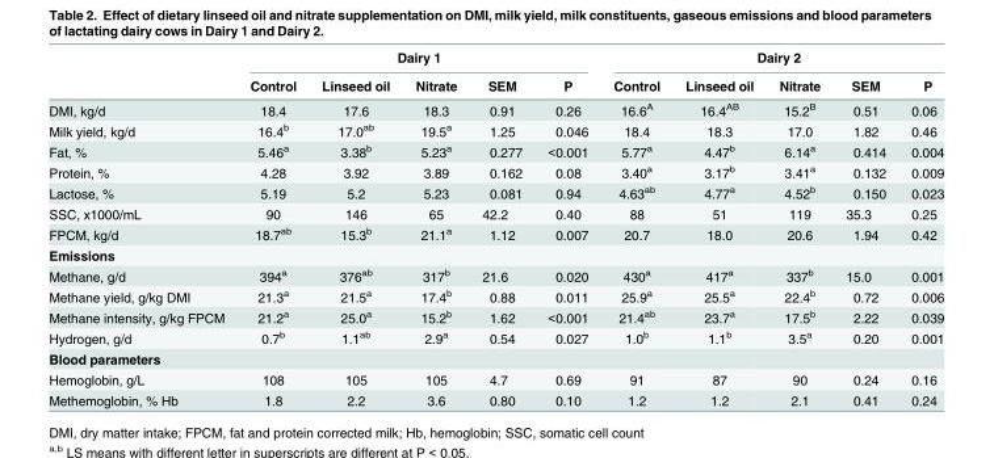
<table><thead><tr><td rowspan="2"></td><td colspan="5">Dairy 1</td><td colspan="5">Dairy 2</td></tr><tr><td>Control</td><td>Linseed oil</td><td>Nitrate</td><td>SEM</td><td>P</td><td>Control</td><td>Linseed oil</td><td>Nitrate</td><td>SEM</td><td>P</td></tr></thead><tbody><tr><td>DMI, kg/d</td><td>18.4</td><td>17.6</td><td>18.3</td><td>0.91</td><td>0.26</td><td>16.6<sup>A</sup></td><td>16.4<sup>AB</sup></td><td>15.2<sup>B</sup></td><td>0.51</td><td>0.06</td></tr><tr><td>Milk yield, kg/d</td><td>16.4<sup>b</sup></td><td>17.0<sup>ab</sup></td><td>19.5<sup>a</sup></td><td>1.25</td><td>0.046</td><td>18.4</td><td>18.3</td><td>17.0</td><td>1.82</td><td>0.46</td></tr><tr><td>Fat, %</td><td>5.46<sup>a</sup></td><td>3.38<sup>b</sup></td><td>5.23<sup>a</sup></td><td>0.277</td><td>&lt;0.001</td><td>5.77<sup>a</sup></td><td>4.47<sup>b</sup></td><td>6.14<sup>a</sup></td><td>0.414</td><td>0.004</td></tr><tr><td>Protein, %</td><td>4.28</td><td>3.92</td><td>3.89</td><td>0.162</td><td>0.08</td><td>3.40<sup>a</sup></td><td>3.17<sup>b</sup></td><td>3.41<sup>a</sup></td><td>0.132</td><td>0.009</td></tr><tr><td>Lactose, %</td><td>5.19</td><td>5.2</td><td>5.23</td><td>0.081</td><td>0.94</td><td>4.63<sup>ab</sup></td><td>4.77<sup>a</sup></td><td>4.52<sup>b</sup></td><td>0.150</td><td>0.023</td></tr><tr><td>SSC, x1000/mL</td><td>90</td><td>146</td><td>65</td><td>42.2</td><td>0.40</td><td>88</td><td>51</td><td>119</td><td>35.3</td><td>0.25</td></tr><tr><td>FPCM, kg/d</td><td>18.7<sup>ab</sup></td><td>15.3<sup>b</sup></td><td>21.1<sup>a</sup></td><td>1.12</td><td>0.007</td><td>20.7</td><td>18.0</td><td>20.6</td><td>1.94</td><td>0.42</td></tr><tr><td colspan="11">Emissions</td></tr><tr><td>Methane, g/d</td><td>394<sup>a</sup></td><td>376<sup>ab</sup></td><td>317<sup>b</sup></td><td>21.6</td><td>0.020</td><td>430<sup>a</sup></td><td>417<sup>a</sup></td><td>337<sup>b</sup></td><td>15.0</td><td>0.001</td></tr><tr><td>Methane yield, g/kg DMI</td><td>21.3<sup>a</sup></td><td>21.5<sup>a</sup></td><td>17.4<sup>b</sup></td><td>0.88</td><td>0.011</td><td>25.9<sup>a</sup></td><td>25.5<sup>a</sup></td><td>22.4<sup>b</sup></td><td>0.72</td><td>0.006</td></tr><tr><td>Methane intensity, g/kg FPCM</td><td>21.2<sup>a</sup></td><td>25.0<sup>a</sup></td><td>15.2<sup>b</sup></td><td>1.62</td><td>&lt;0.001</td><td>21.4<sup>ab</sup></td><td>23.7<sup>a</sup></td><td>17.5<sup>b</sup></td><td>2.22</td><td>0.039</td></tr><tr><td>Hydrogen, g/d</td><td>0.7<sup>b</sup></td><td>1.1<sup>ab</sup></td><td>2.9<sup>a</sup></td><td>0.54</td><td>0.027</td><td>1.0<sup>b</sup></td><td>1.1<sup>b</sup></td><td>3.5<sup>a</sup></td><td>0.20</td><td>0.001</td></tr><tr><td colspan="11">Blood parameters</td></tr><tr><td>Hemoglobin, g/L</td><td>108</td><td>105</td><td>105</td><td>4.7</td><td>0.69</td><td>91</td><td>87</td><td>90</td><td>0.24</td><td>0.16</td></tr><tr><td>Methemoglobin, % Hb</td><td>1.8</td><td>2.2</td><td>3.6</td><td>0.80</td><td>0.10</td><td>1.2</td><td>1.2</td><td>2.1</td><td>0.41</td><td>0.24</td></tr></tbody></table>